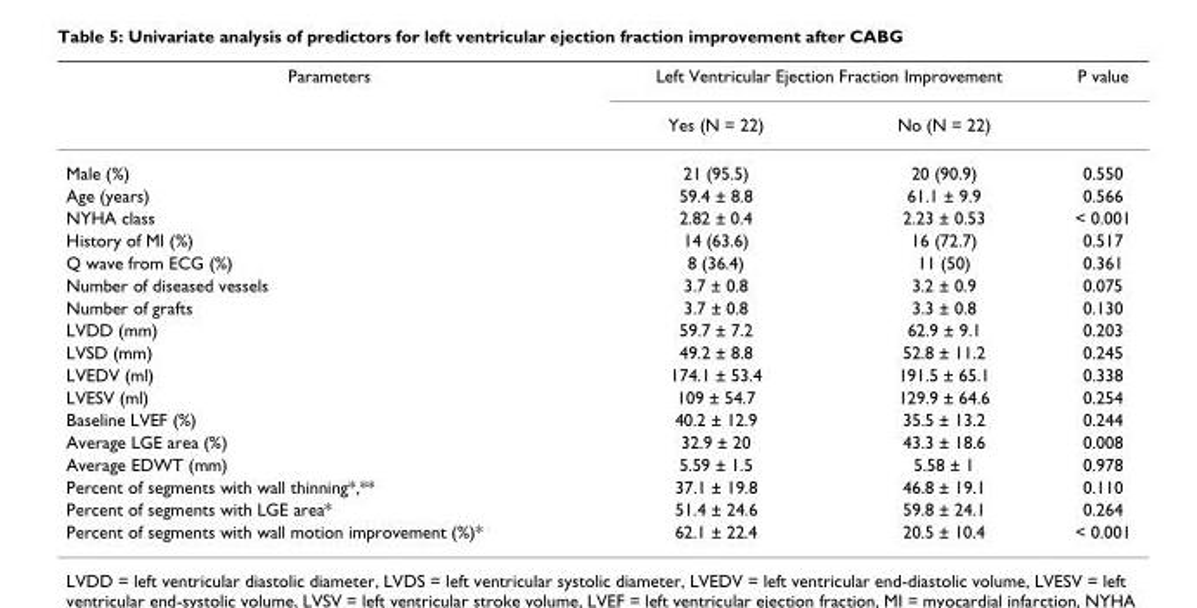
<table><thead><tr><td rowspan="2">Parameters</td><td colspan="2">Left Ventricular Ejection Fraction Improvement</td><td rowspan="2">P value</td></tr><tr><td>Yes (N = 22)</td><td>No (N = 22)</td></tr></thead><tbody><tr><td>Male (%)</td><td>21 (95.5)</td><td>20 (90.9)</td><td>0.550</td></tr><tr><td>Age (years)</td><td>59.4 ± 8.8</td><td>61.1 ± 9.9</td><td>0.566</td></tr><tr><td>NYHA class</td><td>2.82 ± 0.4</td><td>2.23 ± 0.53</td><td>&lt; 0.001</td></tr><tr><td>History of MI (%)</td><td>14 (63.6)</td><td>16 (72.7)</td><td>0.517</td></tr><tr><td>Q wave from ECG (%)</td><td>8 (36.4)</td><td>11 (50)</td><td>0.361</td></tr><tr><td>Number of diseased vessels</td><td>3.7 ± 0.8</td><td>3.2 ± 0.9</td><td>0.075</td></tr><tr><td>Number of grafts</td><td>3.7 ± 0.8</td><td>3.3 ± 0.8</td><td>0.130</td></tr><tr><td>LVDD (mm)</td><td>59.7 ± 7.2</td><td>62.9 ± 9.1</td><td>0.203</td></tr><tr><td>LVSD (mm)</td><td>49.2 ± 8.8</td><td>52.8 ± 11.2</td><td>0.245</td></tr><tr><td>LVEDV (ml)</td><td>174.1 ± 53.4</td><td>191.5 ± 65.1</td><td>0.338</td></tr><tr><td>LVESV (ml)</td><td>109 ± 54.7</td><td>129.9 ± 64.6</td><td>0.254</td></tr><tr><td>Baseline LVEF (%)</td><td>40.2 ± 12.9</td><td>35.5 ± 13.2</td><td>0.244</td></tr><tr><td>Average LGE area (%)</td><td>32.9 ± 20</td><td>43.3 ± 18.6</td><td>0.008</td></tr><tr><td>Average EDWT (mm)</td><td>5.59 ± 1.5</td><td>5.58 ± 1</td><td>0.978</td></tr><tr><td>Percent of segments with wall thinning*,**</td><td>37.1 ± 19.8</td><td>46.8 ± 19.1</td><td>0.110</td></tr><tr><td>Percent of segments with LGE area*</td><td>51.4 ± 24.6</td><td>59.8 ± 24.1</td><td>0.264</td></tr><tr><td>Percent of segments with wall motion improvement (%)*</td><td>62.1 ± 22.4</td><td>20.5 ± 10.4</td><td>&lt; 0.001</td></tr></tbody></table>